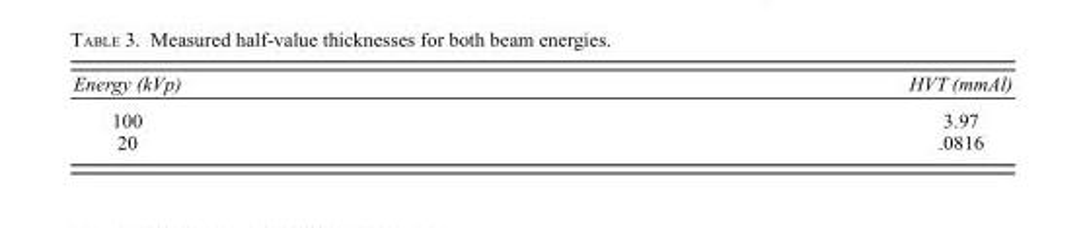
<table><thead><tr><td>Energy (kVp)</td><td>HVT (mmAl)</td></tr></thead><tbody><tr><td>100</td><td>3.97</td></tr><tr><td>20</td><td>.0816</td></tr></tbody></table>